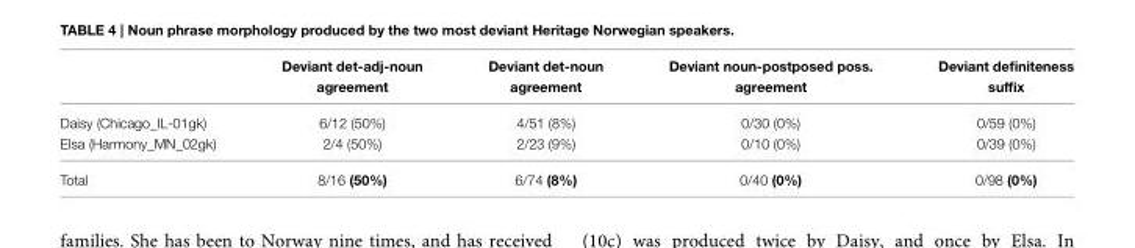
<table><thead><tr><td></td><td>Deviant det-adj-noun agreement</td><td>Deviant det-noun agreement</td><td>Deviant noun-postposed poss. agreement</td><td>Deviant definiteness suffix</td></tr></thead><tbody><tr><td>Daisy (Chicago_IL-01gk)</td><td>6/12 (50%)</td><td>4/51 (8%)</td><td>0/30 (0%)</td><td>0/59 (0%)</td></tr><tr><td>Elsa (Harmony_MN_02gk)</td><td>2/4 (50%)</td><td>2/23 (9%)</td><td>0/10 (0%)</td><td>0/39 (0%)</td></tr><tr><td>Total</td><td>8/16 (50%)</td><td>6/74 (8%)</td><td>0/40 (0%)</td><td>0/98 (0%)</td></tr></tbody></table>